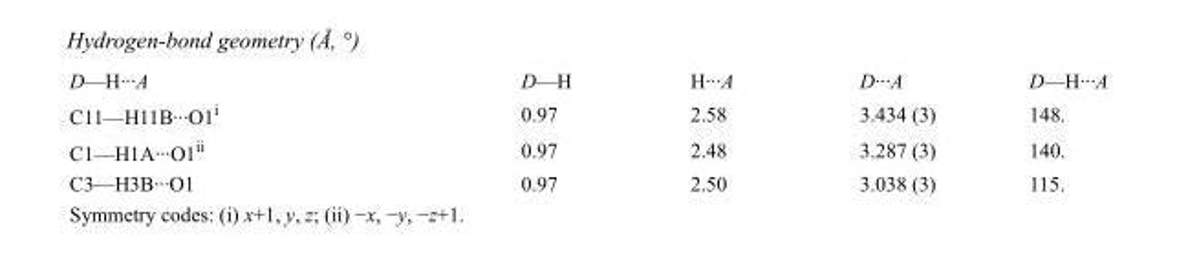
<table><tbody><tr><td>D—H···A</td><td>D—H</td><td>H···A</td><td>D···A</td><td>D—H···A</td></tr><tr><td>C11—H11B···O1<sup>i</sup></td><td>0.97</td><td>2.58</td><td>3.434 (3)</td><td>148.</td></tr><tr><td>C1—H1A···O1<sup>ii</sup></td><td>0.97</td><td>2.48</td><td>3.287 (3)</td><td>140.</td></tr><tr><td>C3—H3B···O1</td><td>0.97</td><td>2.50</td><td>3.038 (3)</td><td>115.</td></tr></tbody></table>